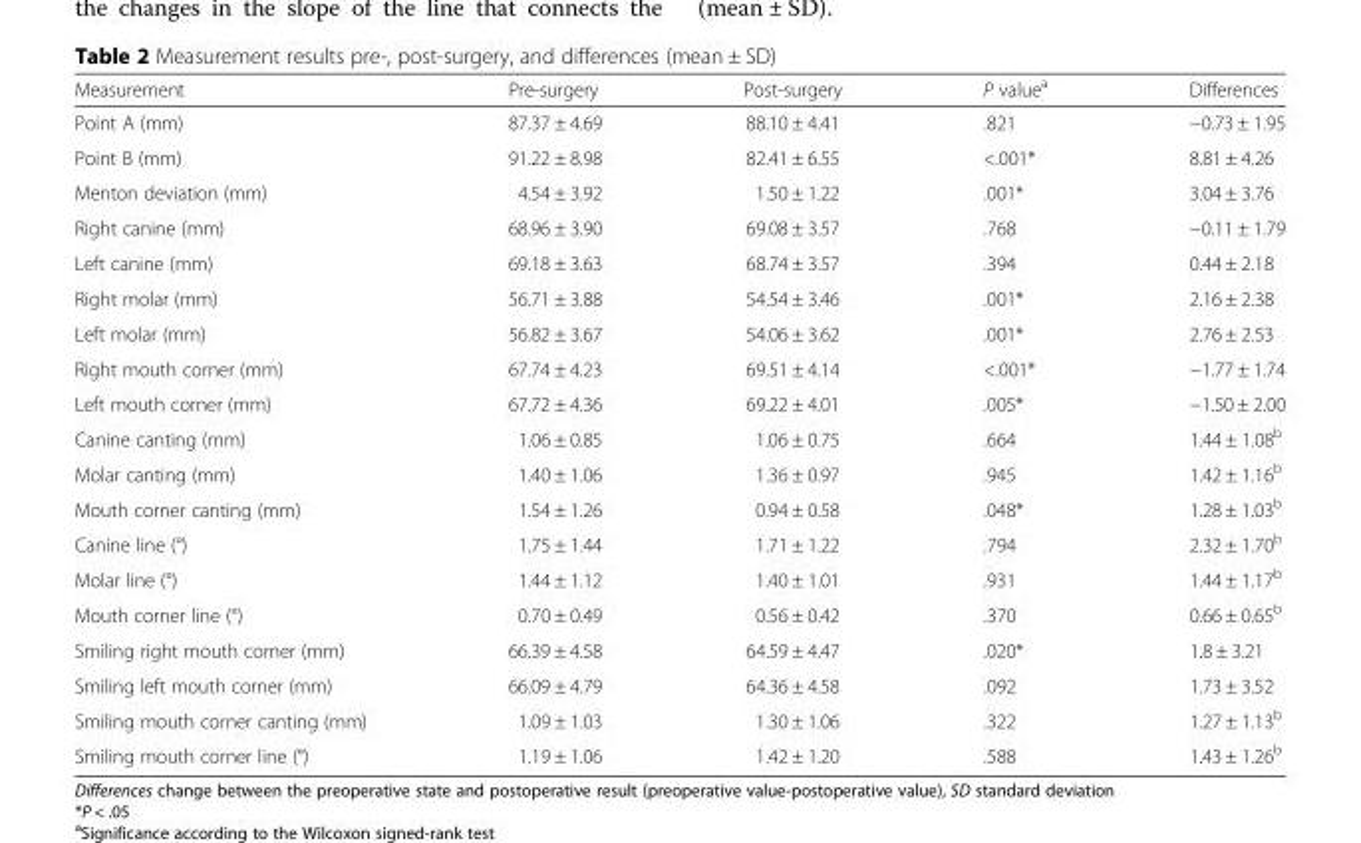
<table><thead><tr><td>Measurement</td><td>Pre-surgery</td><td>Post-surgery</td><td>P value<sup>a</sup></td><td>Differences</td></tr></thead><tbody><tr><td>Point A (mm)</td><td>87.37 ± 4.69</td><td>88.10 ± 4.41</td><td>.821</td><td>−0.73 ± 1.95</td></tr><tr><td>Point B (mm)</td><td>91.22 ± 8.98</td><td>82.41 ± 6.55</td><td>&lt;.001*</td><td>8.81 ± 4.26</td></tr><tr><td>Menton deviation (mm)</td><td>4.54 ± 3.92</td><td>1.50 ± 1.22</td><td>.001*</td><td>3.04 ± 3.76</td></tr><tr><td>Right canine (mm)</td><td>68.96 ± 3.90</td><td>69.08 ± 3.57</td><td>.768</td><td>−0.11 ± 1.79</td></tr><tr><td>Left canine (mm)</td><td>69.18 ± 3.63</td><td>68.74 ± 3.57</td><td>.394</td><td>0.44 ± 2.18</td></tr><tr><td>Right molar (mm)</td><td>56.71 ± 3.88</td><td>54.54 ± 3.46</td><td>.001*</td><td>2.16 ± 2.38</td></tr><tr><td>Left molar (mm)</td><td>56.82 ± 3.67</td><td>54.06 ± 3.62</td><td>.001*</td><td>2.76 ± 2.53</td></tr><tr><td>Right mouth corner (mm)</td><td>67.74 ± 4.23</td><td>69.51 ± 4.14</td><td>&lt;.001*</td><td>−1.77 ± 1.74</td></tr><tr><td>Left mouth corner (mm)</td><td>67.72 ± 4.36</td><td>69.22 ± 4.01</td><td>.005*</td><td>−1.50 ± 2.00</td></tr><tr><td>Canine canting (mm)</td><td>1.06 ± 0.85</td><td>1.06 ± 0.75</td><td>.664</td><td>1.44 ± 1.08<sup>b</sup></td></tr><tr><td>Molar canting (mm)</td><td>1.40 ± 1.06</td><td>1.36 ± 0.97</td><td>.945</td><td>1.42 ± 1.16<sup>b</sup></td></tr><tr><td>Mouth corner canting (mm)</td><td>1.54 ± 1.26</td><td>0.94 ± 0.58</td><td>.048*</td><td>1.28 ± 1.03<sup>b</sup></td></tr><tr><td>Canine line (°)</td><td>1.75 ± 1.44</td><td>1.71 ± 1.22</td><td>.794</td><td>2.32 ± 1.70<sup>b</sup></td></tr><tr><td>Molar line (°)</td><td>1.44 ± 1.12</td><td>1.40 ± 1.01</td><td>.931</td><td>1.44 ± 1.17<sup>b</sup></td></tr><tr><td>Mouth corner line (°)</td><td>0.70 ± 0.49</td><td>0.56 ± 0.42</td><td>.370</td><td>0.66 ± 0.65<sup>b</sup></td></tr><tr><td>Smiling right mouth corner (mm)</td><td>66.39 ± 4.58</td><td>64.59 ± 4.47</td><td>.020*</td><td>1.8 ± 3.21</td></tr><tr><td>Smiling left mouth corner (mm)</td><td>66.09 ± 4.79</td><td>64.36 ± 4.58</td><td>.092</td><td>1.73 ± 3.52</td></tr><tr><td>Smiling mouth corner canting (mm)</td><td>1.09 ± 1.03</td><td>1.30 ± 1.06</td><td>.322</td><td>1.27 ± 1.13<sup>b</sup></td></tr><tr><td>Smiling mouth corner line (°)</td><td>1.19 ± 1.06</td><td>1.42 ± 1.20</td><td>.588</td><td>1.43 ± 1.26<sup>b</sup></td></tr></tbody></table>